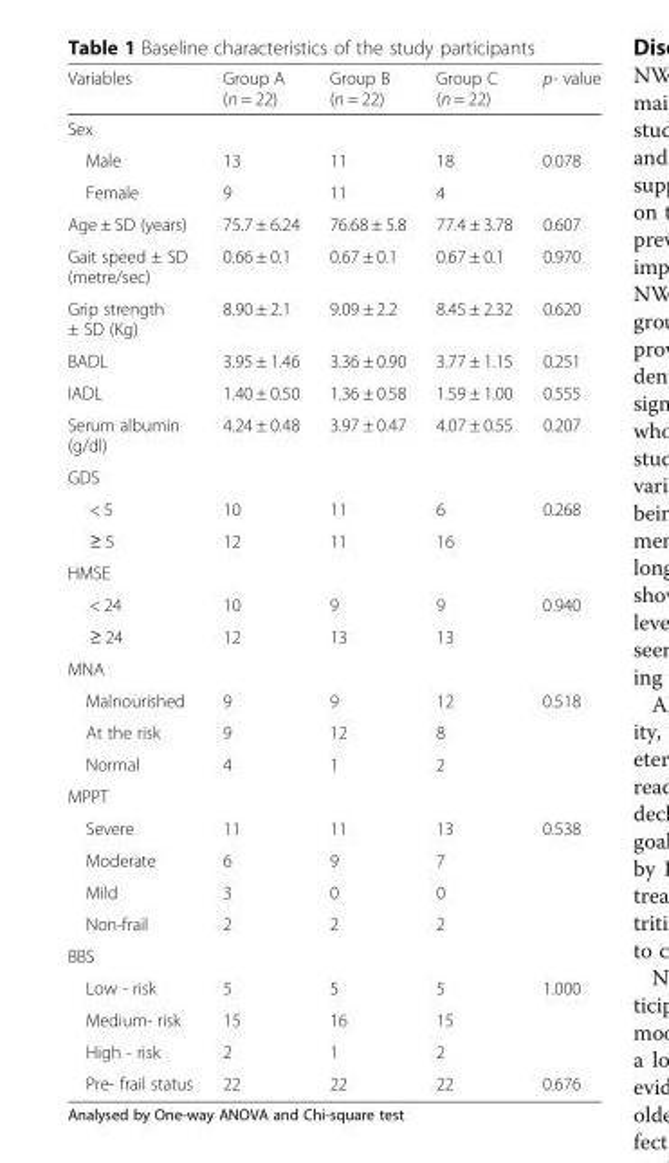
<table><thead><tr><td>Variables</td><td>Group A (n = 22)</td><td>Group B (n = 22)</td><td>Group C (n = 22)</td><td>p- value</td></tr></thead><tbody><tr><td colspan="5">Sex</td></tr><tr><td>Male</td><td>13</td><td>11</td><td>18</td><td rowspan="2">0.078</td></tr><tr><td>Female</td><td>9</td><td>11</td><td>4</td></tr><tr><td>Age ± SD (years)</td><td>75.7 ± 6.24</td><td>76.68 ± 5.8</td><td>77.4 ± 3.78</td><td>0.607</td></tr><tr><td>Gait speed ± SD (metre/sec)</td><td>0.66 ± 0.1</td><td>0.67 ± 0.1</td><td>0.67 ± 0.1</td><td>0.970</td></tr><tr><td>Grip strength ± SD (Kg)</td><td>8.90 ± 2.1</td><td>9.09 ± 2.2</td><td>8.45 ± 2.32</td><td>0.620</td></tr><tr><td>BADL</td><td>3.95 ± 1.46</td><td>3.36 ± 0.90</td><td>3.77 ± 1.15</td><td>0.251</td></tr><tr><td>IADL</td><td>1.40 ± 0.50</td><td>1.36 ± 0.58</td><td>1.59 ± 1.00</td><td>0.555</td></tr><tr><td>Serum albumin (g/dl)</td><td>4.24 ± 0.48</td><td>3.97 ± 0.47</td><td>4.07 ± 0.55</td><td>0.207</td></tr><tr><td colspan="5">GDS</td></tr><tr><td>&lt; 5</td><td>10</td><td>11</td><td>6</td><td rowspan="2">0.268</td></tr><tr><td>≥ 5</td><td>12</td><td>11</td><td>16</td></tr><tr><td colspan="5">HMSE</td></tr><tr><td>&lt; 24</td><td>10</td><td>9</td><td>9</td><td rowspan="2">0.940</td></tr><tr><td>≥ 24</td><td>12</td><td>13</td><td>13</td></tr><tr><td colspan="5">MNA</td></tr><tr><td>Malnourished</td><td>9</td><td>9</td><td>12</td><td rowspan="3">0.518</td></tr><tr><td>At the risk</td><td>9</td><td>12</td><td>8</td></tr><tr><td>Normal</td><td>4</td><td>1</td><td>2</td></tr><tr><td colspan="5">MPPT</td></tr><tr><td>Severe</td><td>11</td><td>11</td><td>13</td><td rowspan="4">0.538</td></tr><tr><td>Moderate</td><td>6</td><td>9</td><td>7</td></tr><tr><td>Mild</td><td>3</td><td>0</td><td>0</td></tr><tr><td>Non-frail</td><td>2</td><td>2</td><td>2</td></tr><tr><td colspan="5">BBS</td></tr><tr><td>Low - risk</td><td>5</td><td>5</td><td>5</td><td rowspan="3">1.000</td></tr><tr><td>Medium- risk</td><td>15</td><td>16</td><td>15</td></tr><tr><td>High - risk</td><td>2</td><td>1</td><td>2</td></tr><tr><td>Pre- frail status</td><td>22</td><td>22</td><td>22</td><td>0.676</td></tr></tbody></table>